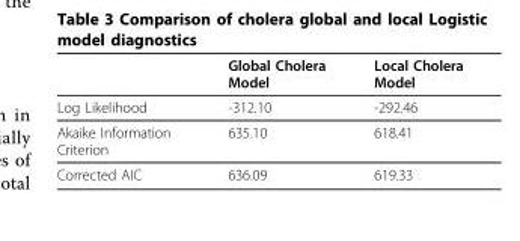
<table><thead><tr><td></td><td>Global Cholera Model</td><td>Local Cholera Model</td></tr></thead><tbody><tr><td>Log Likelihood</td><td>-312.10</td><td>-292.46</td></tr><tr><td>Akaike Information Criterion</td><td>635.10</td><td>618.41</td></tr><tr><td>Corrected AIC</td><td>636.09</td><td>619.33</td></tr></tbody></table>